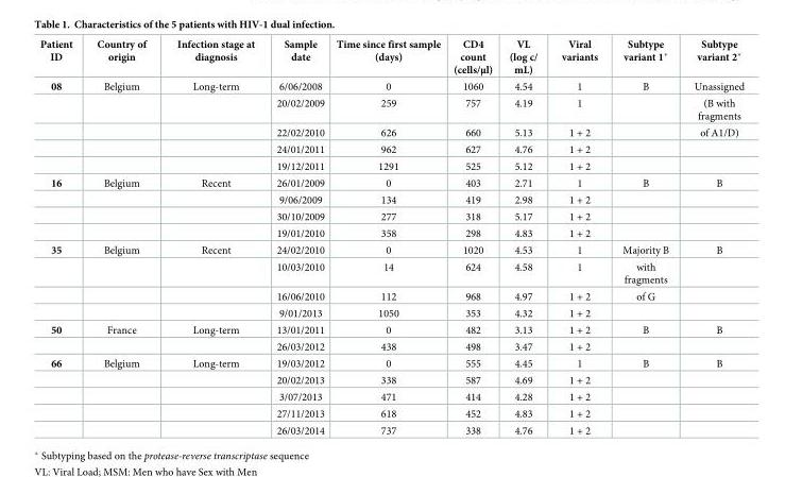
<table><thead><tr><td>Patient ID</td><td>Country of origin</td><td>Infection stage at diagnosis</td><td>Sample date</td><td>Time since first sample (days)</td><td>CD4 count (cells/μl)</td><td>VL (log c/ mL)</td><td>Viral variants</td><td>Subtype variant 1*</td><td>Subtype variant 2*</td></tr></thead><tbody><tr><td rowspan="5">08</td><td>Belgium</td><td>Long-term</td><td>6/06/2008</td><td>0</td><td>1060</td><td>4.54</td><td>1</td><td>B</td><td>Unassigned</td></tr><tr><td></td><td></td><td>20/02/2009</td><td>259</td><td>757</td><td>4.19</td><td>1</td><td></td><td>(B with fragments</td></tr><tr><td></td><td></td><td>22/02/2010</td><td>626</td><td>660</td><td>5.13</td><td>1 + 2</td><td></td><td>of A1/D)</td></tr><tr><td></td><td></td><td>24/01/2011</td><td>962</td><td>627</td><td>4.76</td><td>1 + 2</td><td></td><td></td></tr><tr><td></td><td></td><td>19/12/2011</td><td>1291</td><td>525</td><td>5.12</td><td>1 + 2</td><td></td><td></td></tr><tr><td rowspan="4">16</td><td>Belgium</td><td>Recent</td><td>26/01/2009</td><td>0</td><td>403</td><td>2.71</td><td>1</td><td>B</td><td>B</td></tr><tr><td></td><td></td><td>9/06/2009</td><td>134</td><td>419</td><td>2.98</td><td>1 + 2</td><td></td><td></td></tr><tr><td></td><td></td><td>30/10/2009</td><td>277</td><td>318</td><td>5.17</td><td>1 + 2</td><td></td><td></td></tr><tr><td></td><td></td><td>19/01/2010</td><td>358</td><td>298</td><td>4.83</td><td>1 + 2</td><td></td><td></td></tr><tr><td rowspan="4">35</td><td>Belgium</td><td>Recent</td><td>24/02/2010</td><td>0</td><td>1020</td><td>4.53</td><td>1</td><td>Majority B</td><td>B</td></tr><tr><td></td><td></td><td>10/03/2010</td><td>14</td><td>624</td><td>4.58</td><td>1</td><td>with fragments</td><td></td></tr><tr><td></td><td></td><td>16/06/2010</td><td>112</td><td>968</td><td>4.97</td><td>1 + 2</td><td>of G</td><td></td></tr><tr><td></td><td></td><td>9/01/2013</td><td>1050</td><td>353</td><td>4.32</td><td>1 + 2</td><td></td><td></td></tr><tr><td rowspan="2">50</td><td>France</td><td>Long-term</td><td>13/01/2011</td><td>0</td><td>482</td><td>3.13</td><td>1 + 2</td><td>B</td><td>B</td></tr><tr><td></td><td></td><td>26/03/2012</td><td>438</td><td>498</td><td>3.47</td><td>1 + 2</td><td></td><td></td></tr><tr><td rowspan="5">66</td><td>Belgium</td><td>Long-term</td><td>19/03/2012</td><td>0</td><td>555</td><td>4.45</td><td>1</td><td>B</td><td>B</td></tr><tr><td></td><td></td><td>20/02/2013</td><td>338</td><td>587</td><td>4.69</td><td>1 + 2</td><td></td><td></td></tr><tr><td></td><td></td><td>3/07/2013</td><td>471</td><td>414</td><td>4.28</td><td>1 + 2</td><td></td><td></td></tr><tr><td></td><td></td><td>27/11/2013</td><td>618</td><td>452</td><td>4.83</td><td>1 + 2</td><td></td><td></td></tr><tr><td></td><td></td><td>26/03/2014</td><td>737</td><td>338</td><td>4.76</td><td>1 + 2</td><td></td><td></td></tr></tbody></table>